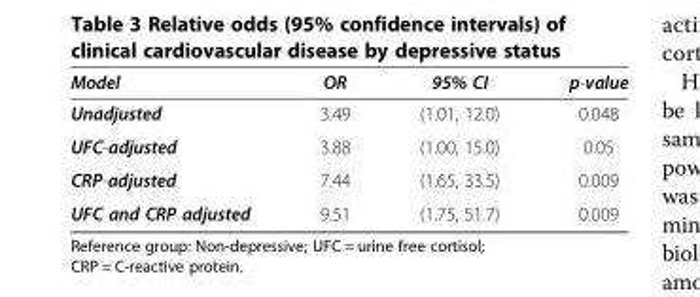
<table><thead><tr><td>Model</td><td>OR</td><td>95% CI</td><td>p-value</td></tr></thead><tbody><tr><td>Unadjusted</td><td>3.49</td><td>(1.01, 12.0)</td><td>0.048</td></tr><tr><td>UFC-adjusted</td><td>3.88</td><td>(1.00, 15.0)</td><td>0.05</td></tr><tr><td>CRP-adjusted</td><td>7.44</td><td>(1.65, 33.5)</td><td>0.009</td></tr><tr><td>UFC and CRP adjusted</td><td>9.51</td><td>(1.75, 51.7)</td><td>0.009</td></tr></tbody></table>